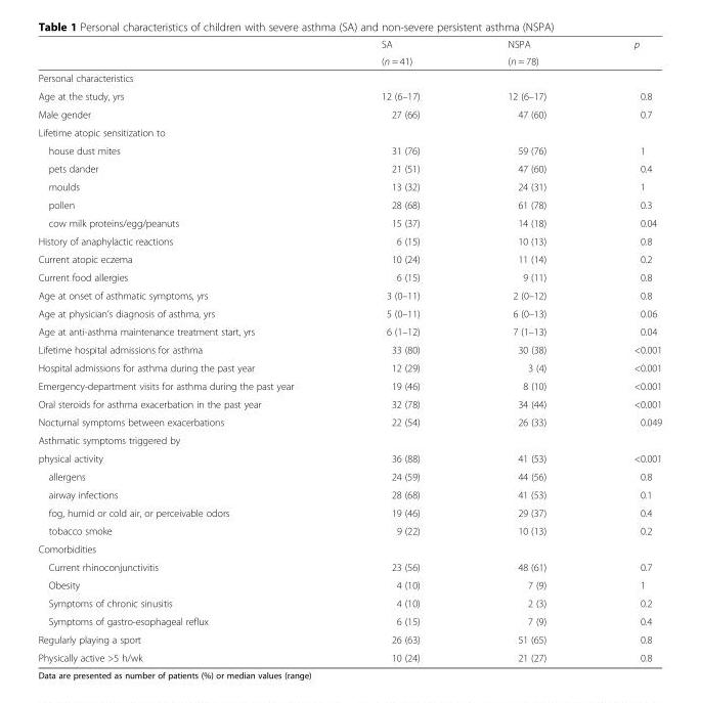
<table><thead><tr><td rowspan="2"></td><td rowspan="2">SA (n = 41)</td><td rowspan="2">NSPA (n = 78)</td><td rowspan="2">p</td></tr><tr></tr></thead><tbody><tr><td colspan="4">Personal characteristics</td></tr><tr><td>Age at the study, yrs</td><td>12 (6–17)</td><td>12 (6–17)</td><td>0.8</td></tr><tr><td>Male gender</td><td>27 (66)</td><td>47 (60)</td><td>0.7</td></tr><tr><td colspan="4">Lifetime atopic sensitization to</td></tr><tr><td>house dust mites</td><td>31 (76)</td><td>59 (76)</td><td>1</td></tr><tr><td>pets dander</td><td>21 (51)</td><td>47 (60)</td><td>0.4</td></tr><tr><td>moulds</td><td>13 (32)</td><td>24 (31)</td><td>1</td></tr><tr><td>pollen</td><td>28 (68)</td><td>61 (78)</td><td>0.3</td></tr><tr><td>cow milk proteins/egg/peanuts</td><td>15 (37)</td><td>14 (18)</td><td>0.04</td></tr><tr><td>History of anaphylactic reactions</td><td>6 (15)</td><td>10 (13)</td><td>0.8</td></tr><tr><td>Current atopic eczema</td><td>10 (24)</td><td>11 (14)</td><td>0.2</td></tr><tr><td>Current food allergies</td><td>6 (15)</td><td>9 (11)</td><td>0.8</td></tr><tr><td>Age at onset of asthmatic symptoms, yrs</td><td>3 (0–11)</td><td>2 (0–12)</td><td>0.8</td></tr><tr><td>Age at physician’s diagnosis of asthma, yrs</td><td>5 (0–11)</td><td>6 (0–13)</td><td>0.06</td></tr><tr><td>Age at anti-asthma maintenance treatment start, yrs</td><td>6 (1–12)</td><td>7 (1–13)</td><td>0.04</td></tr><tr><td>Lifetime hospital admissions for asthma</td><td>33 (80)</td><td>30 (38)</td><td>&lt;0.001</td></tr><tr><td>Hospital admissions for asthma during the past year</td><td>12 (29)</td><td>3 (4)</td><td>&lt;0.001</td></tr><tr><td>Emergency-department visits for asthma during the past year</td><td>19 (46)</td><td>8 (10)</td><td>&lt;0.001</td></tr><tr><td>Oral steroids for asthma exacerbation in the past year</td><td>32 (78)</td><td>34 (44)</td><td>&lt;0.001</td></tr><tr><td>Nocturnal symptoms between exacerbations</td><td>22 (54)</td><td>26 (33)</td><td>0.049</td></tr><tr><td colspan="4">Asthmatic symptoms triggered by</td></tr><tr><td>physical activity</td><td>36 (88)</td><td>41 (53)</td><td>&lt;0.001</td></tr><tr><td>allergens</td><td>24 (59)</td><td>44 (56)</td><td>0.8</td></tr><tr><td>airway infections</td><td>28 (68)</td><td>41 (53)</td><td>0.1</td></tr><tr><td>fog, humid or cold air, or perceivable odors</td><td>19 (46)</td><td>29 (37)</td><td>0.4</td></tr><tr><td>tobacco smoke</td><td>9 (22)</td><td>10 (13)</td><td>0.2</td></tr><tr><td colspan="4">Comorbidities</td></tr><tr><td>Current rhinoconjunctivitis</td><td>23 (56)</td><td>48 (61)</td><td>0.7</td></tr><tr><td>Obesity</td><td>4 (10)</td><td>7 (9)</td><td>1</td></tr><tr><td>Symptoms of chronic sinusitis</td><td>4 (10)</td><td>2 (3)</td><td>0.2</td></tr><tr><td>Symptoms of gastro-esophageal reflux</td><td>6 (15)</td><td>7 (9)</td><td>0.4</td></tr><tr><td>Regularly playing a sport</td><td>26 (63)</td><td>51 (65)</td><td>0.8</td></tr><tr><td>Physically active &gt;5 h/wk</td><td>10 (24)</td><td>21 (27)</td><td>0.8</td></tr></tbody></table>